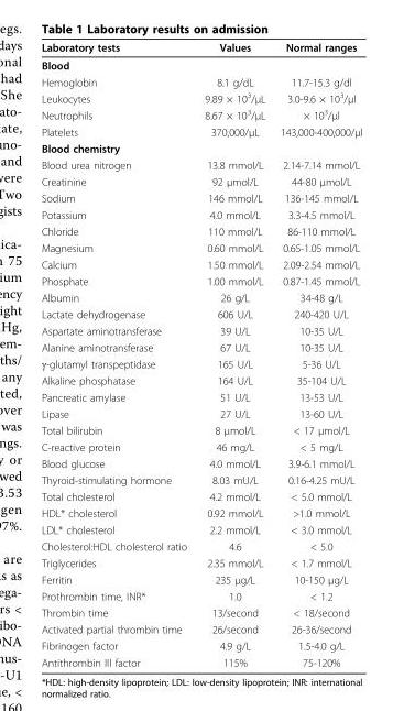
<table><thead><tr><td>Laboratory tests</td><td>Values</td><td>Normal ranges</td></tr></thead><tbody><tr><td colspan="3">Blood</td></tr><tr><td>Hemoglobin</td><td>8.1 g/dL</td><td>11.7-15.3 g/dl</td></tr><tr><td>Leukocytes</td><td>9.89 × 10<sup>3</sup>/μL</td><td>3.0-9.6 × 10<sup>3</sup>/μl</td></tr><tr><td>Neutrophils</td><td>8.67 × 10<sup>3</sup>/μL</td><td>× 10<sup>3</sup>/μl</td></tr><tr><td>Platelets</td><td>370,000/μL</td><td>143,000-400,000/μl</td></tr><tr><td colspan="3">Blood chemistry</td></tr><tr><td>Blood urea nitrogen</td><td>13.8 mmol/L</td><td>2.14-7.14 mmol/L</td></tr><tr><td>Creatinine</td><td>92 μmol/L</td><td>44-80 μmol/L</td></tr><tr><td>Sodium</td><td>146 mmol/L</td><td>136-145 mmol/L</td></tr><tr><td>Potassium</td><td>4.0 mmol/L</td><td>3.3-4.5 mmol/L</td></tr><tr><td>Chloride</td><td>110 mmol/L</td><td>86-110 mmol/L</td></tr><tr><td>Magnesium</td><td>0.60 mmol/L</td><td>0.65-1.05 mmol/L</td></tr><tr><td>Calcium</td><td>1.50 mmol/L</td><td>2.09-2.54 mmol/L</td></tr><tr><td>Phosphate</td><td>1.00 mmol/L</td><td>0.87-1.45 mmol/L</td></tr><tr><td>Albumin</td><td>26 g/L</td><td>34-48 g/L</td></tr><tr><td>Lactate dehydrogenase</td><td>606 U/L</td><td>240-420 U/L</td></tr><tr><td>Aspartate aminotransferase</td><td>39 U/L</td><td>10-35 U/L</td></tr><tr><td>Alanine aminotransferase</td><td>67 U/L</td><td>10-35 U/L</td></tr><tr><td>γ-glutamyl transpeptidase</td><td>165 U/L</td><td>5-36 U/L</td></tr><tr><td>Alkaline phosphatase</td><td>164 U/L</td><td>35-104 U/L</td></tr><tr><td>Pancreatic amylase</td><td>51 U/L</td><td>13-53 U/L</td></tr><tr><td>Lipase</td><td>27 U/L</td><td>13-60 U/L</td></tr><tr><td>Total bilirubin</td><td>8 μmol/L</td><td>&lt; 17 μmol/L</td></tr><tr><td>C-reactive protein</td><td>46 mg/L</td><td>&lt; 5 mg/L</td></tr><tr><td>Blood glucose</td><td>4.0 mmol/L</td><td>3.9-6.1 mmol/L</td></tr><tr><td>Thyroid-stimulating hormone</td><td>8.03 mU/L</td><td>0.16-4.25 mU/L</td></tr><tr><td>Total cholesterol</td><td>4.2 mmol/L</td><td>&lt; 5.0 mmol/L</td></tr><tr><td>HDL* cholesterol</td><td>0.92 mmol/L</td><td>&gt;1.0 mmol/L</td></tr><tr><td>LDL* cholesterol</td><td>2.2 mmol/L</td><td>&lt; 3.0 mmol/L</td></tr><tr><td>Cholesterol:HDL cholesterol ratio</td><td>4.6</td><td>&lt; 5.0</td></tr><tr><td>Triglycerides</td><td>2.35 mmol/L</td><td>&lt; 1.7 mmol/L</td></tr><tr><td>Ferritin</td><td>235 μg/L</td><td>10-150 μg/L</td></tr><tr><td>Prothrombin time, INR*</td><td>1.0</td><td>&lt; 1.2</td></tr><tr><td>Thrombin time</td><td>13/second</td><td>&lt; 18/second</td></tr><tr><td>Activated partial thrombin time</td><td>26/second</td><td>26-36/second</td></tr><tr><td>Fibrinogen factor</td><td>4.9 g/L</td><td>1.5-4.0 g/L</td></tr><tr><td>Antithrombin III factor</td><td>115%</td><td>75-120%</td></tr></tbody></table>